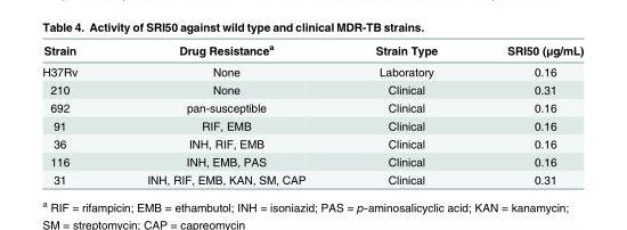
<table><thead><tr><td>Strain</td><td>Drug Resistance<sup>a</sup></td><td>Strain Type</td><td>SRI50 (μg/mL)</td></tr></thead><tbody><tr><td>H37Rv</td><td>None</td><td>Laboratory</td><td>0.16</td></tr><tr><td>210</td><td>None</td><td>Clinical</td><td>0.31</td></tr><tr><td>692</td><td>pan-susceptible</td><td>Clinical</td><td>0.16</td></tr><tr><td>91</td><td>RIF, EMB</td><td>Clinical</td><td>0.16</td></tr><tr><td>36</td><td>INH, RIF, EMB</td><td>Clinical</td><td>0.16</td></tr><tr><td>116</td><td>INH, EMB, PAS</td><td>Clinical</td><td>0.16</td></tr><tr><td>31</td><td>INH, RIF, EMB, KAN, SM, CAP</td><td>Clinical</td><td>0.31</td></tr></tbody></table>